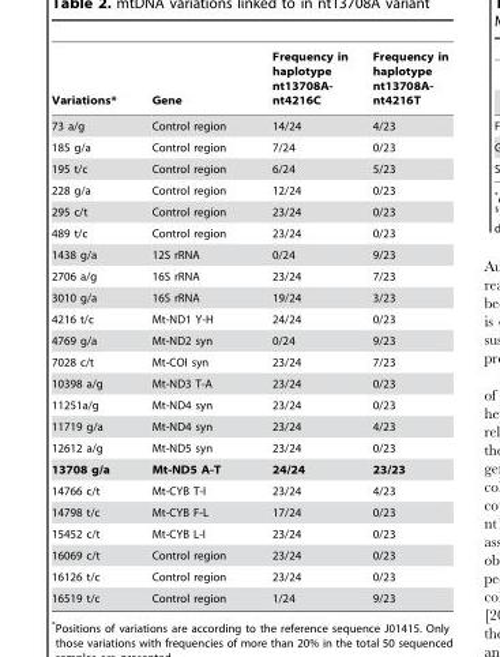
<table><thead><tr><td>Variations*</td><td>Gene</td><td>Frequency in haplotype nt13708A- nt4216C</td><td>Frequency in haplotype nt13708A- nt4216T</td></tr></thead><tbody><tr><td>73 a/g</td><td>Control region</td><td>14/24</td><td>4/23</td></tr><tr><td>185 g/a</td><td>Control region</td><td>7/24</td><td>0/23</td></tr><tr><td>195 t/c</td><td>Control region</td><td>6/24</td><td>5/23</td></tr><tr><td>228 g/a</td><td>Control region</td><td>12/24</td><td>0/23</td></tr><tr><td>295 c/t</td><td>Control region</td><td>23/24</td><td>0/23</td></tr><tr><td>489 t/c</td><td>Control region</td><td>23/24</td><td>0/23</td></tr><tr><td>1438 g/a</td><td>12S rRNA</td><td>0/24</td><td>9/23</td></tr><tr><td>2706 a/g</td><td>16S rRNA</td><td>23/24</td><td>7/23</td></tr><tr><td>3010 g/a</td><td>16S rRNA</td><td>19/24</td><td>3/23</td></tr><tr><td>4216 t/c</td><td>Mt-ND1 Y-H</td><td>24/24</td><td>0/23</td></tr><tr><td>4769 g/a</td><td>Mt-ND2 syn</td><td>0/24</td><td>9/23</td></tr><tr><td>7028 c/t</td><td>Mt-COI syn</td><td>23/24</td><td>7/23</td></tr><tr><td>10398 a/g</td><td>Mt-ND3 T-A</td><td>23/24</td><td>0/23</td></tr><tr><td>11251a/g</td><td>Mt-ND4 syn</td><td>23/24</td><td>0/23</td></tr><tr><td>11719 g/a</td><td>Mt-ND4 syn</td><td>23/24</td><td>4/23</td></tr><tr><td>12612 a/g</td><td>Mt-ND5 syn</td><td>23/24</td><td>0/23</td></tr><tr><td>13708 g/a</td><td>Mt-ND5 A-T</td><td>24/24</td><td>23/23</td></tr><tr><td>14766 c/t</td><td>Mt-CYB T-I</td><td>23/24</td><td>4/23</td></tr><tr><td>14798 t/c</td><td>Mt-CYB F-L</td><td>17/24</td><td>0/23</td></tr><tr><td>15452 c/t</td><td>Mt-CYB L-I</td><td>23/24</td><td>0/23</td></tr><tr><td>16069 c/t</td><td>Control region</td><td>23/24</td><td>0/23</td></tr><tr><td>16126 t/c</td><td>Control region</td><td>23/24</td><td>0/23</td></tr><tr><td>16519 t/c</td><td>Control region</td><td>1/24</td><td>9/23</td></tr></tbody></table>